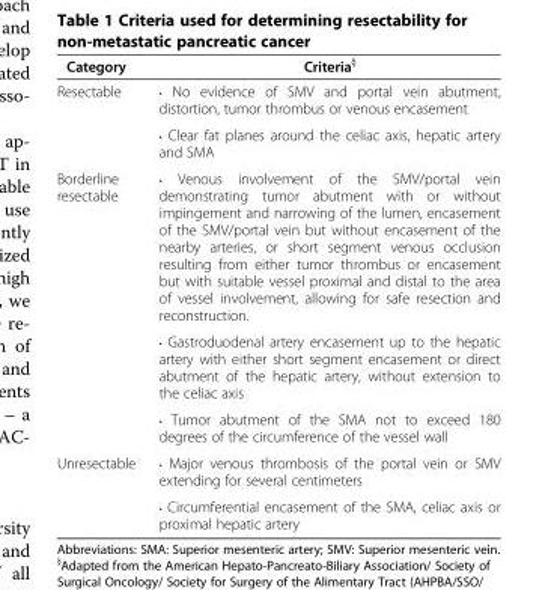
<table><thead><tr><td>Category</td><td>Criteria§</td></tr></thead><tbody><tr><td rowspan="2">Resectable</td><td>• No evidence of SMV and portal vein abutment, distortion, tumor thrombus or venous encasement</td></tr><tr><td>• Clear fat planes around the celiac axis, hepatic artery and SMA</td></tr><tr><td rowspan="3">Borderline resectable</td><td>• Venous involvement of the SMV/portal vein demonstrating tumor abutment with or without impingement and narrowing of the lumen, encasement of the SMV/portal vein but without encasement of the nearby arteries, or short segment venous occlusion resulting from either tumor thrombus or encasement but with suitable vessel proximal and distal to the area of vessel involvement, allowing for safe resection and reconstruction.</td></tr><tr><td>• Gastroduodenal artery encasement up to the hepatic artery with either short segment encasement or direct abutment of the hepatic artery, without extension to the celiac axis</td></tr><tr><td>• Tumor abutment of the SMA not to exceed 180 degrees of the circumference of the vessel wall</td></tr><tr><td rowspan="2">Unresectable</td><td>• Major venous thrombosis of the portal vein or SMV extending for several centimeters</td></tr><tr><td>• Circumferential encasement of the SMA, celiac axis or proximal hepatic artery</td></tr></tbody></table>